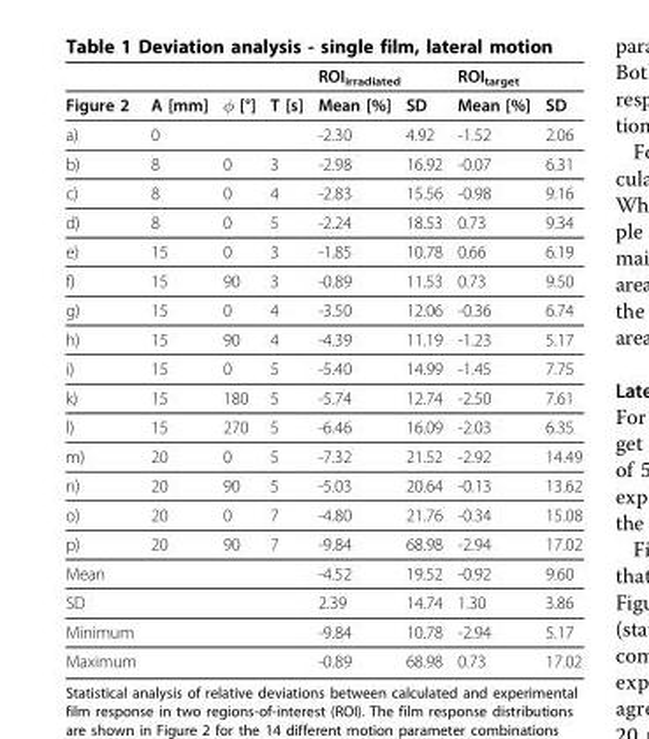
<table><thead><tr><td rowspan="2">Figure 2</td><td rowspan="2">A [mm]</td><td rowspan="2">φ [°]</td><td rowspan="2">T [s]</td><td colspan="2">ROI<sub>irradiated</sub></td><td colspan="2">ROI<sub>target</sub></td></tr><tr><td>Mean [%]</td><td>SD</td><td>Mean [%]</td><td>SD</td></tr></thead><tbody><tr><td>a)</td><td>0</td><td></td><td></td><td>-2.30</td><td>4.92</td><td>-1.52</td><td>2.06</td></tr><tr><td>b)</td><td>8</td><td>0</td><td>3</td><td>-2.98</td><td>16.92</td><td>-0.07</td><td>6.31</td></tr><tr><td>c)</td><td>8</td><td>0</td><td>4</td><td>-2.83</td><td>15.56</td><td>-0.98</td><td>9.16</td></tr><tr><td>d)</td><td>8</td><td>0</td><td>5</td><td>-2.24</td><td>18.53</td><td>0.73</td><td>9.34</td></tr><tr><td>e)</td><td>15</td><td>0</td><td>3</td><td>-1.85</td><td>10.78</td><td>0.66</td><td>6.19</td></tr><tr><td>f)</td><td>15</td><td>90</td><td>3</td><td>-0.89</td><td>11.53</td><td>0.73</td><td>9.50</td></tr><tr><td>g)</td><td>15</td><td>0</td><td>4</td><td>-3.50</td><td>12.06</td><td>-0.36</td><td>6.74</td></tr><tr><td>h)</td><td>15</td><td>90</td><td>4</td><td>-4.39</td><td>11.19</td><td>-1.23</td><td>5.17</td></tr><tr><td>i)</td><td>15</td><td>0</td><td>5</td><td>-5.40</td><td>14.99</td><td>-1.45</td><td>7.75</td></tr><tr><td>k)</td><td>15</td><td>180</td><td>5</td><td>-5.74</td><td>12.74</td><td>-2.50</td><td>7.61</td></tr><tr><td>l)</td><td>15</td><td>270</td><td>5</td><td>-6.46</td><td>16.09</td><td>-2.03</td><td>6.35</td></tr><tr><td>m)</td><td>20</td><td>0</td><td>5</td><td>-7.32</td><td>21.52</td><td>-2.92</td><td>14.49</td></tr><tr><td>n)</td><td>20</td><td>90</td><td>5</td><td>-5.03</td><td>20.64</td><td>-0.13</td><td>13.62</td></tr><tr><td>o)</td><td>20</td><td>0</td><td>7</td><td>-4.80</td><td>21.76</td><td>-0.34</td><td>15.08</td></tr><tr><td>p)</td><td>20</td><td>90</td><td>7</td><td>-9.84</td><td>68.98</td><td>-2.94</td><td>17.02</td></tr><tr><td>Mean</td><td></td><td></td><td></td><td>-4.52</td><td>19.52</td><td>-0.92</td><td>9.60</td></tr><tr><td>SD</td><td></td><td></td><td></td><td>2.39</td><td>14.74</td><td>1.30</td><td>3.86</td></tr><tr><td>Minimum</td><td></td><td></td><td></td><td>-9.84</td><td>10.78</td><td>-2.94</td><td>5.17</td></tr><tr><td>Maximum</td><td></td><td></td><td></td><td>-0.89</td><td>68.98</td><td>0.73</td><td>17.02</td></tr></tbody></table>